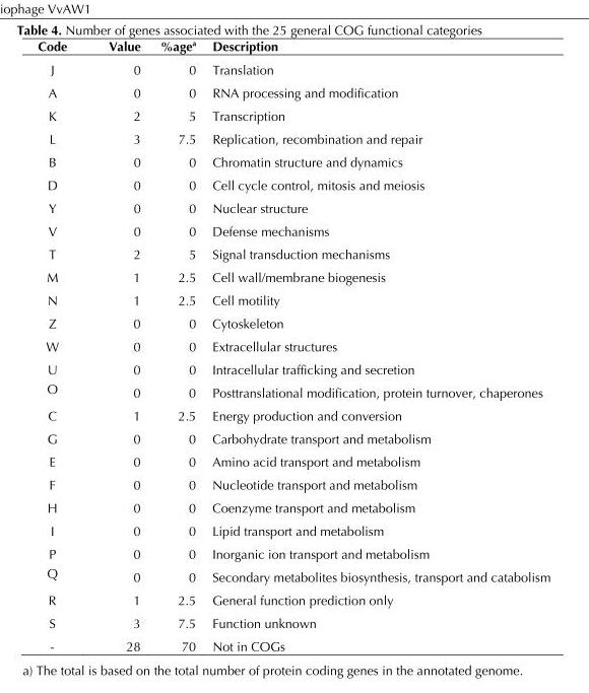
<table><thead><tr><td>Code</td><td>Value</td><td>%age<sup>a</sup></td><td>Description</td></tr></thead><tbody><tr><td>J</td><td>0</td><td>0</td><td>Translation</td></tr><tr><td>A</td><td>0</td><td>0</td><td>RNA processing and modification</td></tr><tr><td>K</td><td>2</td><td>5</td><td>Transcription</td></tr><tr><td>L</td><td>3</td><td>7.5</td><td>Replication, recombination and repair</td></tr><tr><td>B</td><td>0</td><td>0</td><td>Chromatin structure and dynamics</td></tr><tr><td>D</td><td>0</td><td>0</td><td>Cell cycle control, mitosis and meiosis</td></tr><tr><td>Y</td><td>0</td><td>0</td><td>Nuclear structure</td></tr><tr><td>V</td><td>0</td><td>0</td><td>Defense mechanisms</td></tr><tr><td>T</td><td>2</td><td>5</td><td>Signal transduction mechanisms</td></tr><tr><td>M</td><td>1</td><td>2.5</td><td>Cell wall/membrane biogenesis</td></tr><tr><td>N</td><td>1</td><td>2.5</td><td>Cell motility</td></tr><tr><td>Z</td><td>0</td><td>0</td><td>Cytoskeleton</td></tr><tr><td>W</td><td>0</td><td>0</td><td>Extracellular structures</td></tr><tr><td>U</td><td>0</td><td>0</td><td>Intracellular trafficking and secretion</td></tr><tr><td>O</td><td>0</td><td>0</td><td>Posttranslational modification, protein turnover, chaperones</td></tr><tr><td>C</td><td>1</td><td>2.5</td><td>Energy production and conversion</td></tr><tr><td>G</td><td>0</td><td>0</td><td>Carbohydrate transport and metabolism</td></tr><tr><td>E</td><td>0</td><td>0</td><td>Amino acid transport and metabolism</td></tr><tr><td>F</td><td>0</td><td>0</td><td>Nucleotide transport and metabolism</td></tr><tr><td>H</td><td>0</td><td>0</td><td>Coenzyme transport and metabolism</td></tr><tr><td>I</td><td>0</td><td>0</td><td>Lipid transport and metabolism</td></tr><tr><td>P</td><td>0</td><td>0</td><td>Inorganic ion transport and metabolism</td></tr><tr><td>Q</td><td>0</td><td>0</td><td>Secondary metabolites biosynthesis, transport and catabolism</td></tr><tr><td>R</td><td>1</td><td>2.5</td><td>General function prediction only</td></tr><tr><td>S</td><td>3</td><td>7.5</td><td>Function unknown</td></tr><tr><td>-</td><td>28</td><td>70</td><td>Not in COGs</td></tr></tbody></table>